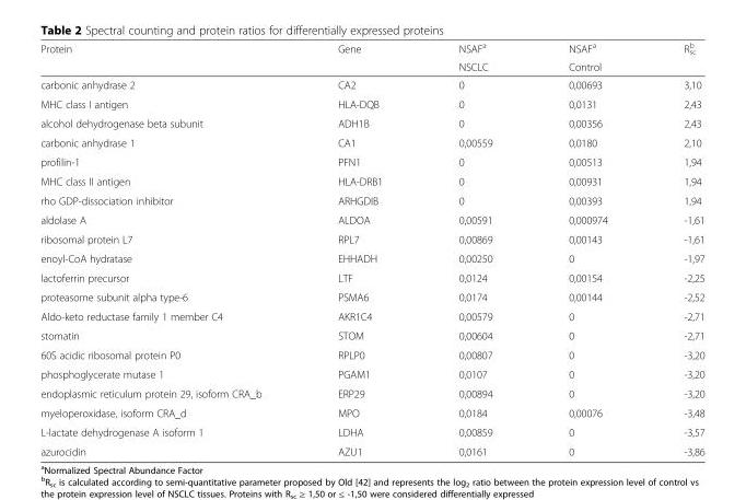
<table><thead><tr><td rowspan="2">Protein</td><td rowspan="2">Gene</td><td rowspan="2">NSAF<sup>a</sup> NSCLC</td><td rowspan="2">NSAF<sup>a</sup> Control</td><td rowspan="2">R<sub>sc</sub> <sup>b</sup></td></tr><tr></tr></thead><tbody><tr><td>carbonic anhydrase 2</td><td>CA2</td><td>0</td><td>0,00693</td><td>3,10</td></tr><tr><td>MHC class I antigen</td><td>HLA-DQB</td><td>0</td><td>0,0131</td><td>2,43</td></tr><tr><td>alcohol dehydrogenase beta subunit</td><td>ADH1B</td><td>0</td><td>0,00356</td><td>2,43</td></tr><tr><td>carbonic anhydrase 1</td><td>CA1</td><td>0,00559</td><td>0,0180</td><td>2,10</td></tr><tr><td>profilin-1</td><td>PFN1</td><td>0</td><td>0,00513</td><td>1,94</td></tr><tr><td>MHC class II antigen</td><td>HLA-DRB1</td><td>0</td><td>0,00931</td><td>1,94</td></tr><tr><td>rho GDP-dissociation inhibitor</td><td>ARHGDIB</td><td>0</td><td>0,00393</td><td>1,94</td></tr><tr><td>aldolase A</td><td>ALDOA</td><td>0,00591</td><td>0,000974</td><td>-1,61</td></tr><tr><td>ribosomal protein L7</td><td>RPL7</td><td>0,00869</td><td>0,00143</td><td>-1,61</td></tr><tr><td>enoyl-CoA hydratase</td><td>EHHADH</td><td>0,00250</td><td>0</td><td>-1,97</td></tr><tr><td>lactoferrin precursor</td><td>LTF</td><td>0,0124</td><td>0,00154</td><td>-2,25</td></tr><tr><td>proteasome subunit alpha type-6</td><td>PSMA6</td><td>0,0174</td><td>0,00144</td><td>-2,52</td></tr><tr><td>Aldo-keto reductase family 1 member C4</td><td>AKR1C4</td><td>0,00579</td><td>0</td><td>-2,71</td></tr><tr><td>stomatin</td><td>STOM</td><td>0,00604</td><td>0</td><td>-2,71</td></tr><tr><td>60S acidic ribosomal protein P0</td><td>RPLP0</td><td>0,00807</td><td>0</td><td>-3,20</td></tr><tr><td>phosphoglycerate mutase 1</td><td>PGAM1</td><td>0,0107</td><td>0</td><td>-3,20</td></tr><tr><td>endoplasmic reticulum protein 29, isoform CRA_b</td><td>ERP29</td><td>0,00894</td><td>0</td><td>-3,20</td></tr><tr><td>myeloperoxidase, isoform CRA_d</td><td>MPO</td><td>0,0184</td><td>0,00076</td><td>-3,48</td></tr><tr><td>L-lactate dehydrogenase A isoform 1</td><td>LDHA</td><td>0,00859</td><td>0</td><td>-3,57</td></tr><tr><td>azurocidin</td><td>AZU1</td><td>0,0161</td><td>0</td><td>-3,86</td></tr></tbody></table>